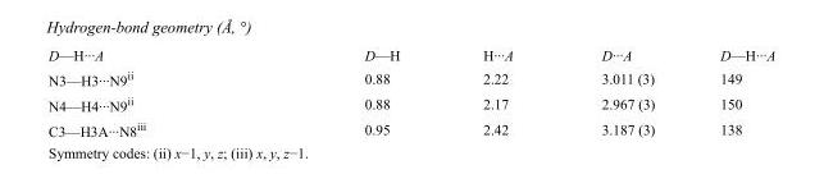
<table><tbody><tr><td>D—H···A</td><td>D—H</td><td>H···A</td><td>D···A</td><td>D—H···A</td></tr><tr><td>N3—H3···N9<sup>ii</sup></td><td>0.88</td><td>2.22</td><td>3.011 (3)</td><td>149</td></tr><tr><td>N4—H4···N9<sup>ii</sup></td><td>0.88</td><td>2.17</td><td>2.967 (3)</td><td>150</td></tr><tr><td>C3—H3A···N8<sup>iii</sup></td><td>0.95</td><td>2.42</td><td>3.187 (3)</td><td>138</td></tr></tbody></table>